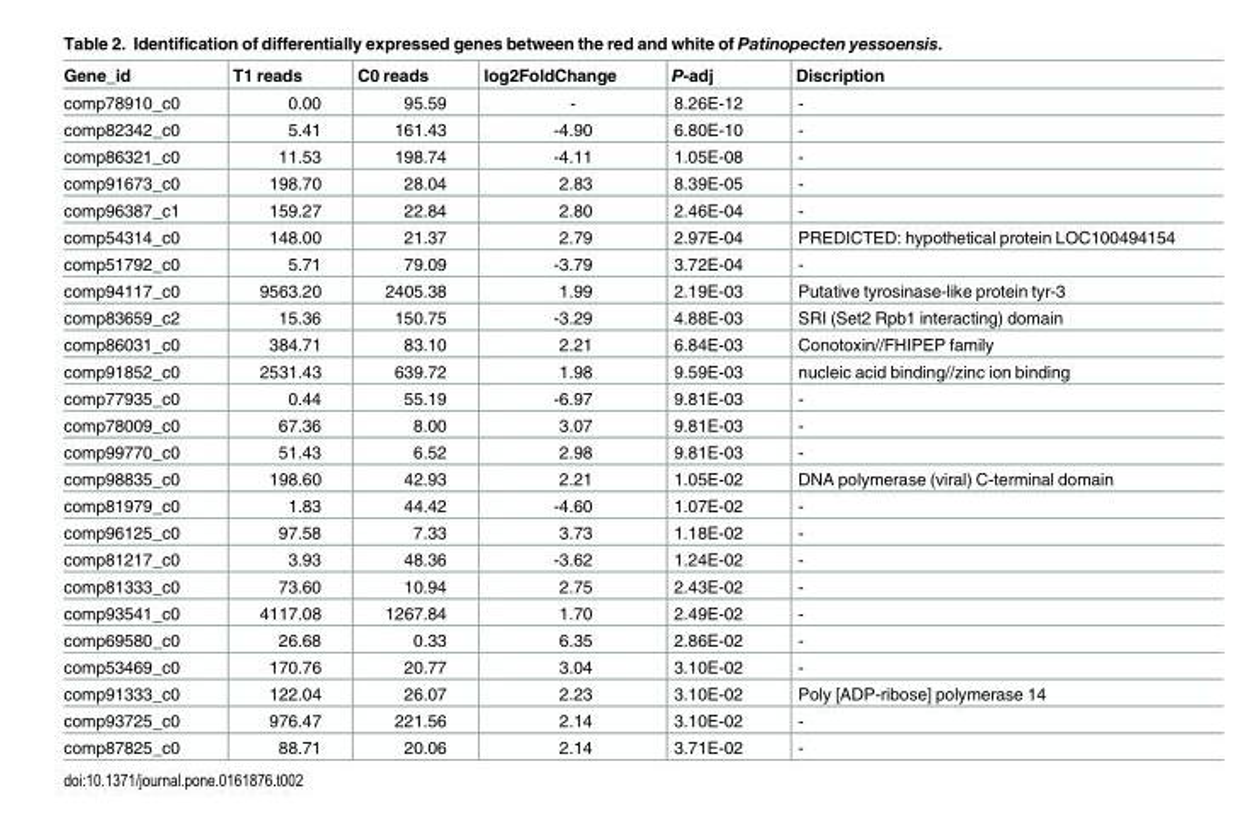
<table><thead><tr><td>Gene_id</td><td>T1 reads</td><td>C0 reads</td><td>log2FoldChange</td><td>P-adj</td><td>Discription</td></tr></thead><tbody><tr><td>comp78910_c0</td><td>0.00</td><td>95.59</td><td>-</td><td>8.26E-12</td><td>-</td></tr><tr><td>comp82342_c0</td><td>5.41</td><td>161.43</td><td>-4.90</td><td>6.80E-10</td><td>-</td></tr><tr><td>comp86321_c0</td><td>11.53</td><td>198.74</td><td>-4.11</td><td>1.05E-08</td><td>-</td></tr><tr><td>comp91673_c0</td><td>198.70</td><td>28.04</td><td>2.83</td><td>8.39E-05</td><td>-</td></tr><tr><td>comp96387_c1</td><td>159.27</td><td>22.84</td><td>2.80</td><td>2.46E-04</td><td>-</td></tr><tr><td>comp54314_c0</td><td>148.00</td><td>21.37</td><td>2.79</td><td>2.97E-04</td><td>PREDICTED: hypothetical protein LOC100494154</td></tr><tr><td>comp51792_c0</td><td>5.71</td><td>79.09</td><td>-3.79</td><td>3.72E-04</td><td>-</td></tr><tr><td>comp94117_c0</td><td>9563.20</td><td>2405.38</td><td>1.99</td><td>2.19E-03</td><td>Putative tyrosinase-like protein tyr-3</td></tr><tr><td>comp83659_c2</td><td>15.36</td><td>150.75</td><td>-3.29</td><td>4.88E-03</td><td>SRI (Set2 Rpb1 interacting) domain</td></tr><tr><td>comp86031_c0</td><td>384.71</td><td>83.10</td><td>2.21</td><td>6.84E-03</td><td>Conotoxin//FHIPEP family</td></tr><tr><td>comp91852_c0</td><td>2531.43</td><td>639.72</td><td>1.98</td><td>9.59E-03</td><td>nucleic acid binding//zinc ion binding</td></tr><tr><td>comp77935_c0</td><td>0.44</td><td>55.19</td><td>-6.97</td><td>9.81E-03</td><td>-</td></tr><tr><td>comp78009_c0</td><td>67.36</td><td>8.00</td><td>3.07</td><td>9.81E-03</td><td>-</td></tr><tr><td>comp99770_c0</td><td>51.43</td><td>6.52</td><td>2.98</td><td>9.81E-03</td><td>-</td></tr><tr><td>comp98835_c0</td><td>198.60</td><td>42.93</td><td>2.21</td><td>1.05E-02</td><td>DNA polymerase (viral) C-terminal domain</td></tr><tr><td>comp81979_c0</td><td>1.83</td><td>44.42</td><td>-4.60</td><td>1.07E-02</td><td>-</td></tr><tr><td>comp96125_c0</td><td>97.58</td><td>7.33</td><td>3.73</td><td>1.18E-02</td><td>-</td></tr><tr><td>comp81217_c0</td><td>3.93</td><td>48.36</td><td>-3.62</td><td>1.24E-02</td><td>-</td></tr><tr><td>comp81333_c0</td><td>73.60</td><td>10.94</td><td>2.75</td><td>2.43E-02</td><td>-</td></tr><tr><td>comp93541_c0</td><td>4117.08</td><td>1267.84</td><td>1.70</td><td>2.49E-02</td><td>-</td></tr><tr><td>comp69580_c0</td><td>26.68</td><td>0.33</td><td>6.35</td><td>2.86E-02</td><td>-</td></tr><tr><td>comp53469_c0</td><td>170.76</td><td>20.77</td><td>3.04</td><td>3.10E-02</td><td>-</td></tr><tr><td>comp91333_c0</td><td>122.04</td><td>26.07</td><td>2.23</td><td>3.10E-02</td><td>Poly [ADP-ribose] polymerase 14</td></tr><tr><td>comp93725_c0</td><td>976.47</td><td>221.56</td><td>2.14</td><td>3.10E-02</td><td>-</td></tr><tr><td>comp87825_c0</td><td>88.71</td><td>20.06</td><td>2.14</td><td>3.71E-02</td><td>-</td></tr></tbody></table>